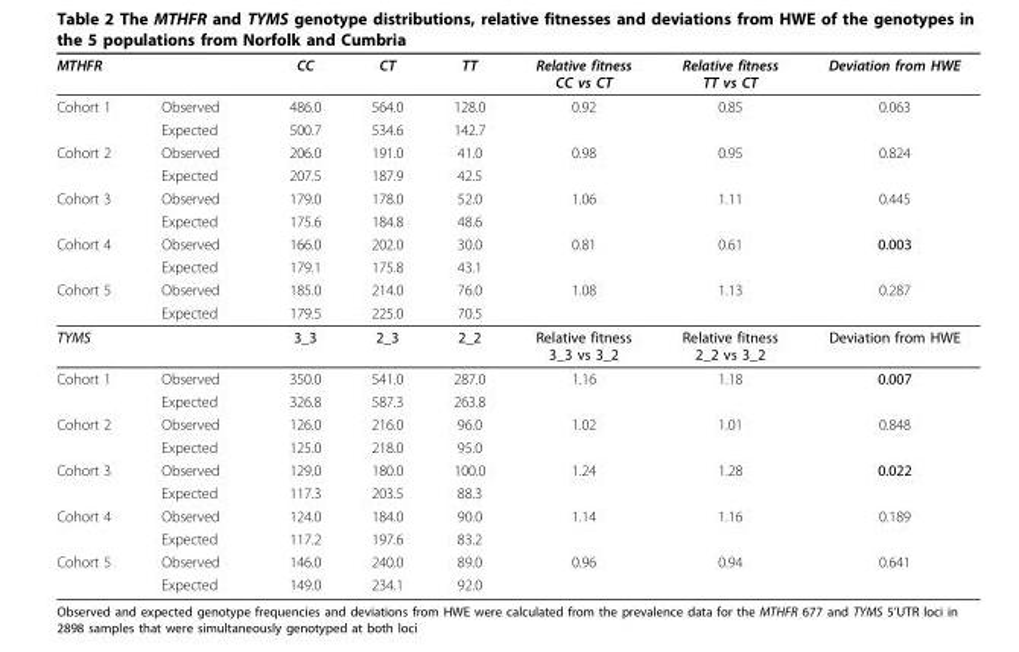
<table><thead><tr><td>MTHFR</td><td></td><td>CC</td><td>CT</td><td>TT</td><td>Relative fitness CC vs CT</td><td>Relative fitness TT vs CT</td><td>Deviation from HWE</td></tr></thead><tbody><tr><td rowspan="2">Cohort 1</td><td>Observed</td><td>486.0</td><td>564.0</td><td>128.0</td><td>0.92</td><td>0.85</td><td>0.063</td></tr><tr><td>Expected</td><td>500.7</td><td>534.6</td><td>142.7</td><td></td><td></td><td></td></tr><tr><td rowspan="2">Cohort 2</td><td>Observed</td><td>206.0</td><td>191.0</td><td>41.0</td><td>0.98</td><td>0.95</td><td>0.824</td></tr><tr><td>Expected</td><td>207.5</td><td>187.9</td><td>42.5</td><td></td><td></td><td></td></tr><tr><td rowspan="2">Cohort 3</td><td>Observed</td><td>179.0</td><td>178.0</td><td>52.0</td><td>1.06</td><td>1.11</td><td>0.445</td></tr><tr><td>Expected</td><td>175.6</td><td>184.8</td><td>48.6</td><td></td><td></td><td></td></tr><tr><td rowspan="2">Cohort 4</td><td>Observed</td><td>166.0</td><td>202.0</td><td>30.0</td><td>0.81</td><td>0.61</td><td>0.003</td></tr><tr><td>Expected</td><td>179.1</td><td>175.8</td><td>43.1</td><td></td><td></td><td></td></tr><tr><td rowspan="2">Cohort 5</td><td>Observed</td><td>185.0</td><td>214.0</td><td>76.0</td><td>1.08</td><td>1.13</td><td>0.287</td></tr><tr><td>Expected</td><td>179.5</td><td>225.0</td><td>70.5</td><td></td><td></td><td></td></tr><tr><td>TYMS</td><td></td><td>3_3</td><td>2_3</td><td>2_2</td><td>Relative fitness 3_3 vs 3_2</td><td>Relative fitness 2_2 vs 3_2</td><td>Deviation from HWE</td></tr><tr><td rowspan="2">Cohort 1</td><td>Observed</td><td>350.0</td><td>541.0</td><td>287.0</td><td>1.16</td><td>1.18</td><td>0.007</td></tr><tr><td>Expected</td><td>326.8</td><td>587.3</td><td>263.8</td><td></td><td></td><td></td></tr><tr><td rowspan="2">Cohort 2</td><td>Observed</td><td>126.0</td><td>216.0</td><td>96.0</td><td>1.02</td><td>1.01</td><td>0.848</td></tr><tr><td>Expected</td><td>125.0</td><td>218.0</td><td>95.0</td><td></td><td></td><td></td></tr><tr><td rowspan="2">Cohort 3</td><td>Observed</td><td>129.0</td><td>180.0</td><td>100.0</td><td>1.24</td><td>1.28</td><td>0.022</td></tr><tr><td>Expected</td><td>117.3</td><td>203.5</td><td>88.3</td><td></td><td></td><td></td></tr><tr><td rowspan="2">Cohort 4</td><td>Observed</td><td>124.0</td><td>184.0</td><td>90.0</td><td>1.14</td><td>1.16</td><td>0.189</td></tr><tr><td>Expected</td><td>117.2</td><td>197.6</td><td>83.2</td><td></td><td></td><td></td></tr><tr><td rowspan="2">Cohort 5</td><td>Observed</td><td>146.0</td><td>240.0</td><td>89.0</td><td>0.96</td><td>0.94</td><td>0.641</td></tr><tr><td>Expected</td><td>149.0</td><td>234.1</td><td>92.0</td><td></td><td></td><td></td></tr></tbody></table>